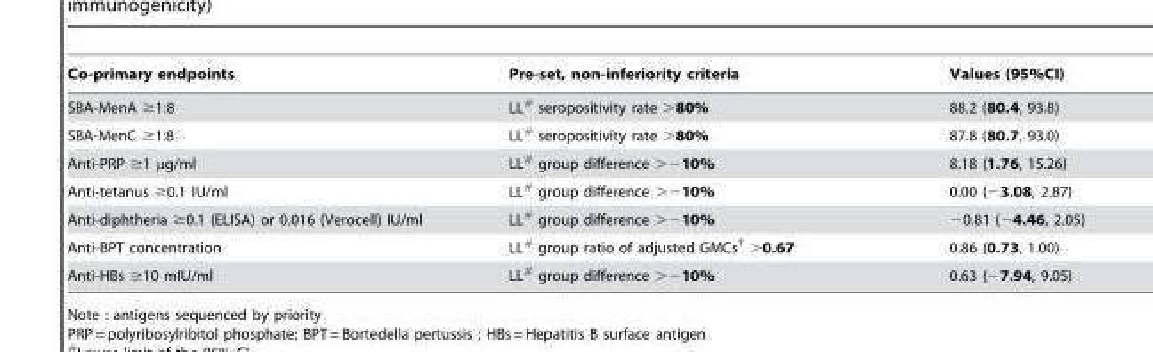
<table><thead><tr><td>Co-primary endpoints</td><td>Pre-set, non-inferiority criteria</td><td>Values (95%CI)</td></tr></thead><tbody><tr><td>SBA-MenA ≥1:8</td><td>LL# seropositivity rate &gt;80%</td><td>88.2 (80.4, 93.8)</td></tr><tr><td>SBA-MenC ≥1:8</td><td>LL# seropositivity rate &gt;80%</td><td>87.8 (80.7, 93.0)</td></tr><tr><td>Anti-PRP ≥1 μg/ml</td><td>LL# group difference &gt;−10%</td><td>8.18 (1.76, 15.26)</td></tr><tr><td>Anti-tetanus ≥0.1 IU/ml</td><td>LL# group difference &gt;−10%</td><td>0.00 (−3.08, 2.87)</td></tr><tr><td>Anti-diphtheria ≥0.1 (ELISA) or 0.016 (Verocell) IU/ml</td><td>LL# group difference &gt;−10%</td><td>−0.81 (−4.46, 2.05)</td></tr><tr><td>Anti-BPT concentration</td><td>LL# group ratio of adjusted GMCs† &gt;0.67</td><td>0.86 (0.73, 1.00)</td></tr><tr><td>Anti-HBs ≥10 mIU/ml</td><td>LL# group difference &gt;−10%</td><td>0.63 (−7.94, 9.05)</td></tr></tbody></table>